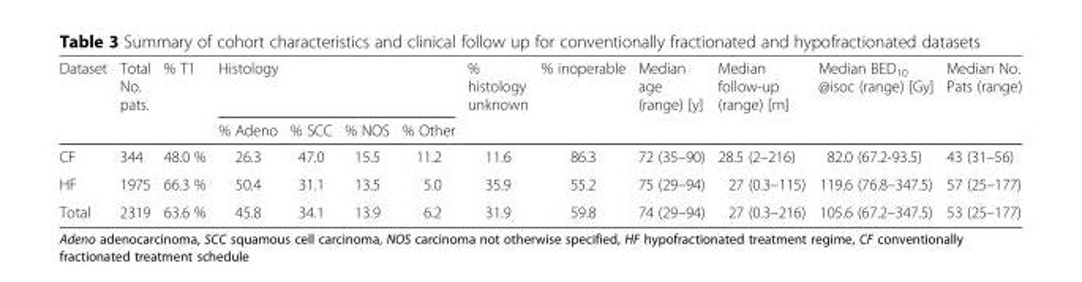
<table><thead><tr><td rowspan="2">Dataset</td><td rowspan="2">Total No. pats.</td><td rowspan="2">% T1</td><td colspan="4">Histology</td><td rowspan="2">% histology unknown</td><td rowspan="2">% inoperable</td><td rowspan="2">Median age (range) [y]</td><td rowspan="2">Median follow-up (range) [m]</td><td rowspan="2">Median BED<sub>10</sub> @isoc (range) [Gy]</td><td rowspan="2">Median No. Pats (range)</td></tr><tr><td>% Adeno</td><td>% SCC</td><td>% NOS</td><td>% Other</td></tr></thead><tbody><tr><td>CF</td><td>344</td><td>48.0 %</td><td>26.3</td><td>47.0</td><td>15.5</td><td>11.2</td><td>11.6</td><td>86.3</td><td>72 (35–90)</td><td>28.5 (2–216)</td><td>82.0 (67.2-93.5)</td><td>43 (31–56)</td></tr><tr><td>HF</td><td>1975</td><td>66.3 %</td><td>50.4</td><td>31.1</td><td>13.5</td><td>5.0</td><td>35.9</td><td>55.2</td><td>75 (29–94)</td><td>27 (0.3–115)</td><td>119.6 (76.8–347.5)</td><td>57 (25–177)</td></tr><tr><td>Total</td><td>2319</td><td>63.6 %</td><td>45.8</td><td>34.1</td><td>13.9</td><td>6.2</td><td>31.9</td><td>59.8</td><td>74 (29–94)</td><td>27 (0.3–216)</td><td>105.6 (67.2–347.5)</td><td>53 (25–177)</td></tr></tbody></table>